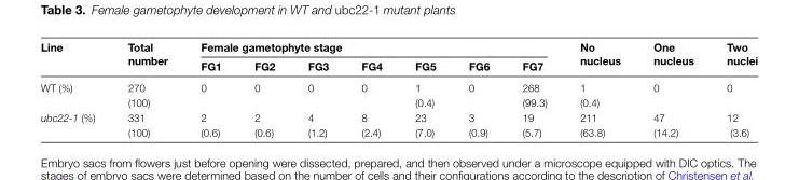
<table><thead><tr><td rowspan="2">Line</td><td rowspan="2">Total number</td><td colspan="7">Female gametophyte stage</td><td rowspan="2">No nucleus</td><td rowspan="2">One nucleus</td><td rowspan="2">Two nuclei</td></tr><tr><td>FG1</td><td>FG2</td><td>FG3</td><td>FG4</td><td>FG5</td><td>FG6</td><td>FG7</td></tr></thead><tbody><tr><td>WT (%)</td><td>270 (100)</td><td>0</td><td>0</td><td>0</td><td>0</td><td>1 (0.4)</td><td>0</td><td>268 (99.3)</td><td>1 (0.4)</td><td>0</td><td>0</td></tr><tr><td>ubc22-1 (%)</td><td>331 (100)</td><td>2 (0.6)</td><td>2 (0.6)</td><td>4 (1.2)</td><td>8 (2.4)</td><td>23 (7.0)</td><td>3 (0.9)</td><td>19 (5.7)</td><td>211 (63.8)</td><td>47 (14.2)</td><td>12 (3.6)</td></tr></tbody></table>